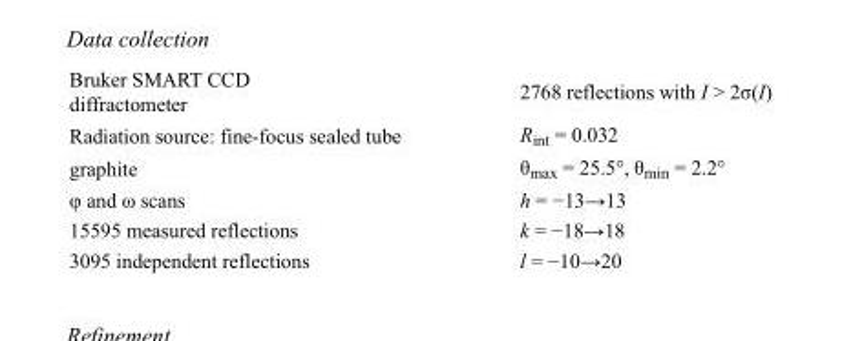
<table><tbody><tr><td>Bruker SMART CCD diffractometer</td><td>2768 reflections with I &gt; 2σ(I)</td></tr><tr><td>Radiation source: fine-focus sealed tube</td><td>R<sub>int</sub> = 0.032</td></tr><tr><td>graphite</td><td>θ<sub>max</sub> = 25.5°, θ<sub>min</sub> = 2.2°</td></tr><tr><td>φ and ω scans</td><td>h = −13→13</td></tr><tr><td>15595 measured reflections</td><td>k = −18→18</td></tr><tr><td>3095 independent reflections</td><td>l = −10→20</td></tr></tbody></table>